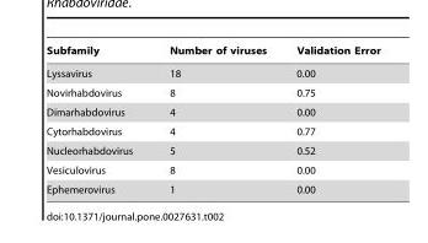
<table><thead><tr><td>Subfamily</td><td>Number of viruses</td><td>Validation Error</td></tr></thead><tbody><tr><td>Lyssavirus</td><td>18</td><td>0.00</td></tr><tr><td>Novirhabdovirus</td><td>8</td><td>0.75</td></tr><tr><td>Dimarhabdovirus</td><td>4</td><td>0.00</td></tr><tr><td>Cytorhabdovirus</td><td>4</td><td>0.77</td></tr><tr><td>Nucleorhabdovirus</td><td>5</td><td>0.52</td></tr><tr><td>Vesiculovirus</td><td>8</td><td>0.00</td></tr><tr><td>Ephemerovirus</td><td>1</td><td>0.00</td></tr></tbody></table>